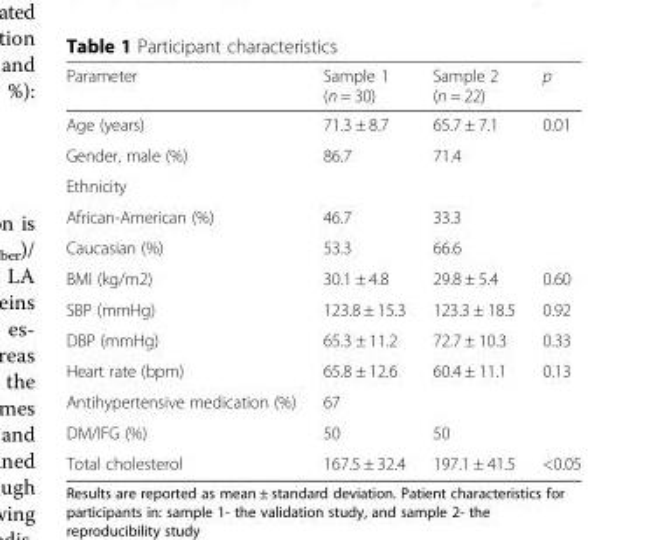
<table><thead><tr><td>Parameter</td><td>Sample 1 (n = 30)</td><td>Sample 2 (n = 22)</td><td>p</td></tr></thead><tbody><tr><td>Age (years)</td><td>71.3 ± 8.7</td><td>65.7 ± 7.1</td><td>0.01</td></tr><tr><td>Gender, male (%)</td><td>86.7</td><td>71.4</td><td></td></tr><tr><td colspan="4">Ethnicity</td></tr><tr><td>African-American (%)</td><td>46.7</td><td>33.3</td><td></td></tr><tr><td>Caucasian (%)</td><td>53.3</td><td>66.6</td><td></td></tr><tr><td>BMI (kg/m2)</td><td>30.1 ± 4.8</td><td>29.8 ± 5.4</td><td>0.60</td></tr><tr><td>SBP (mmHg)</td><td>123.8 ± 15.3</td><td>123.3 ± 18.5</td><td>0.92</td></tr><tr><td>DBP (mmHg)</td><td>65.3 ± 11.2</td><td>72.7 ± 10.3</td><td>0.33</td></tr><tr><td>Heart rate (bpm)</td><td>65.8 ± 12.6</td><td>60.4 ± 11.1</td><td>0.13</td></tr><tr><td>Antihypertensive medication (%)</td><td>67</td><td></td><td></td></tr><tr><td>DM/IFG (%)</td><td>50</td><td>50</td><td></td></tr><tr><td>Total cholesterol</td><td>167.5 ± 32.4</td><td>197.1 ± 41.5</td><td>&lt;0.05</td></tr></tbody></table>